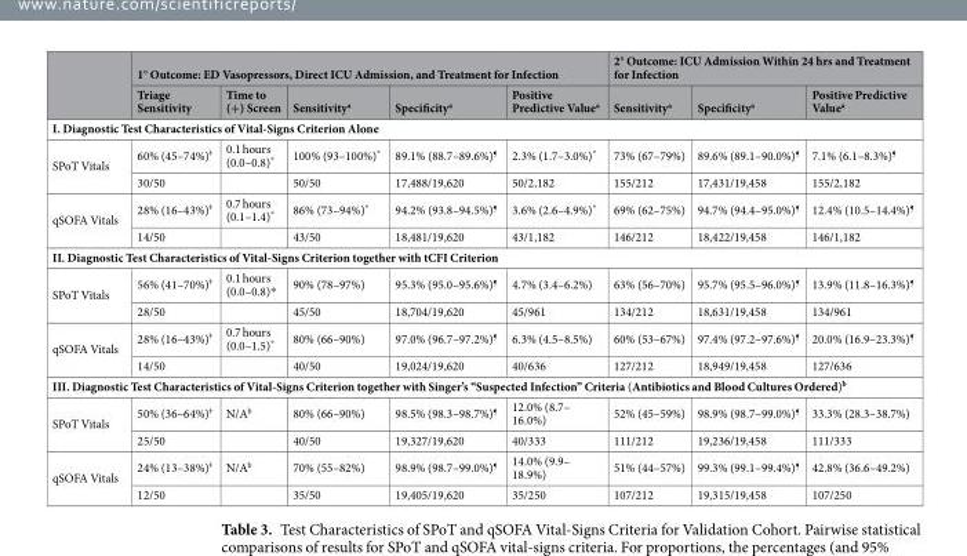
<table><thead><tr><td rowspan="2"></td><td colspan="5">1° Outcome: ED Vasopressors, Direct ICU Admission, and Treatment for Infection</td><td colspan="3">2° Outcome: ICU Admission Within 24 hrs and Treatment for Infection</td></tr><tr><td>Triage Sensitivity</td><td>Time to (+) Screen</td><td>Sensitivity<sup>a</sup></td><td>Specificity<sup>a</sup></td><td>Positive Predictive Value<sup>a</sup></td><td>Sensitivity<sup>a</sup></td><td>Specificity<sup>a</sup></td><td>Positive Predictive Value<sup>a</sup></td></tr></thead><tbody><tr><td colspan="9">I. Diagnostic Test Characteristics of Vital-Signs Criterion Alone</td></tr><tr><td rowspan="2">SPoT Vitals</td><td>60% (45–74%)<sup>ǂ</sup></td><td>0.1 hours (0.0–0.8)*</td><td>100% (93–100%)*</td><td>89.1% (88.7–89.6%)<sup>¶</sup></td><td>2.3% (1.7–3.0%)*</td><td>73% (67–79%)</td><td>89.6% (89.1–90.0%)<sup>¶</sup></td><td>7.1% (6.1–8.3%)<sup>¶</sup></td></tr><tr><td>30/50</td><td></td><td>50/50</td><td>17,488/19,620</td><td>50/2,182</td><td>155/212</td><td>17,431/19,458</td><td>155/2,182</td></tr><tr><td rowspan="2">qSOFA Vitals</td><td>28% (16–43%)<sup>ǂ</sup></td><td>0.7 hours (0.1–1.4)*</td><td>86% (73–94%)*</td><td>94.2% (93.8–94.5%)<sup>¶</sup></td><td>3.6% (2.6–4.9%)*</td><td>69% (62–75%)</td><td>94.7% (94.4–95.0%)<sup>¶</sup></td><td>12.4% (10.5–14.4%)<sup>¶</sup></td></tr><tr><td>14/50</td><td></td><td>43/50</td><td>18,481/19,620</td><td>43/1,182</td><td>146/212</td><td>18,422/19,458</td><td>146/1,182</td></tr><tr><td colspan="9">II. Diagnostic Test Characteristics of Vital-Signs Criterion together with tCFI Criterion</td></tr><tr><td rowspan="2">SPoT Vitals</td><td>56% (41–70%)<sup>ǂ</sup></td><td>0.1 hours (0.0–0.8)*</td><td>90% (78–97%)</td><td>95.3% (95.0–95.6%)<sup>¶</sup></td><td>4.7% (3.4–6.2%)</td><td>63% (56–70%)</td><td>95.7% (95.5–96.0%)<sup>¶</sup></td><td>13.9% (11.8–16.3%)<sup>¶</sup></td></tr><tr><td>28/50</td><td></td><td>45/50</td><td>18,704/19,620</td><td>45/961</td><td>134/212</td><td>18,631/19,458</td><td>134/961</td></tr><tr><td rowspan="2">qSOFA Vitals</td><td>28% (16–43%)<sup>ǂ</sup></td><td>0.7 hours (0.0–1.5)*</td><td>80% (66–90%)</td><td>97.0% (96.7–97.2%)<sup>¶</sup></td><td>6.3% (4.5–8.5%)</td><td>60% (53–67%)</td><td>97.4% (97.2–97.6%)<sup>¶</sup></td><td>20.0% (16.9–23.3%)<sup>¶</sup></td></tr><tr><td>14/50</td><td></td><td>40/50</td><td>19,024/19,620</td><td>40/636</td><td>127/212</td><td>18,949/19,458</td><td>127/636</td></tr><tr><td colspan="9">III. Diagnostic Test Characteristics of Vital-Signs Criterion together with Singer’s “Suspected Infection” Criteria (Antibiotics and Blood Cultures Ordered)<sup>b</sup></td></tr><tr><td rowspan="2">SPoT Vitals</td><td>50% (36–64%)<sup>ǂ</sup></td><td>N/A<sup>b</sup></td><td>80% (66–90%)</td><td>98.5% (98.3–98.7%)<sup>¶</sup></td><td>12.0% (8.7– 16.0%)</td><td>52% (45–59%)</td><td>98.9% (98.7–99.0%)<sup>¶</sup></td><td>33.3% (28.3–38.7%)</td></tr><tr><td>25/50</td><td></td><td>40/50</td><td>19,327/19,620</td><td>40/333</td><td>111/212</td><td>19,236/19,458</td><td>111/333</td></tr><tr><td rowspan="2">qSOFA Vitals</td><td>24% (13–38%)<sup>ǂ</sup></td><td>N/A<sup>b</sup></td><td>70% (55–82%)</td><td>98.9% (98.7–99.0%)<sup>¶</sup></td><td>14.0% (9.9– 18.9%)</td><td>51% (44–57%)</td><td>99.3% (99.1–99.4%)<sup>¶</sup></td><td>42.8% (36.6–49.2%)</td></tr><tr><td>12/50</td><td></td><td>35/50</td><td>19,405/19,620</td><td>35/250</td><td>107/212</td><td>19,315/19,458</td><td>107/250</td></tr></tbody></table>